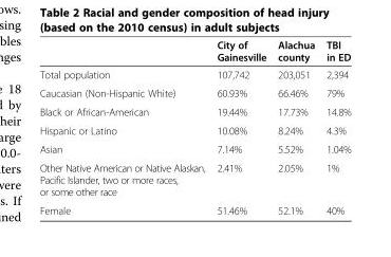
<table><thead><tr><td></td><td>City of Gainesville</td><td>Alachua county</td><td>TBI in ED</td></tr></thead><tbody><tr><td>Total population</td><td>107,742</td><td>203,051</td><td>2,394</td></tr><tr><td>Caucasian (Non-Hispanic White)</td><td>60.93%</td><td>66.46%</td><td>79%</td></tr><tr><td>Black or African-American</td><td>19.44%</td><td>17.73%</td><td>14.8%</td></tr><tr><td>Hispanic or Latino</td><td>10.08%</td><td>8.24%</td><td>4.3%</td></tr><tr><td>Asian</td><td>7.14%</td><td>5.52%</td><td>1.04%</td></tr><tr><td>Other Native American or Native Alaskan, Pacific Islander, two or more races, or some other race</td><td>2.41%</td><td>2.05%</td><td>1%</td></tr><tr><td>Female</td><td>51.46%</td><td>52.1%</td><td>40%</td></tr></tbody></table>